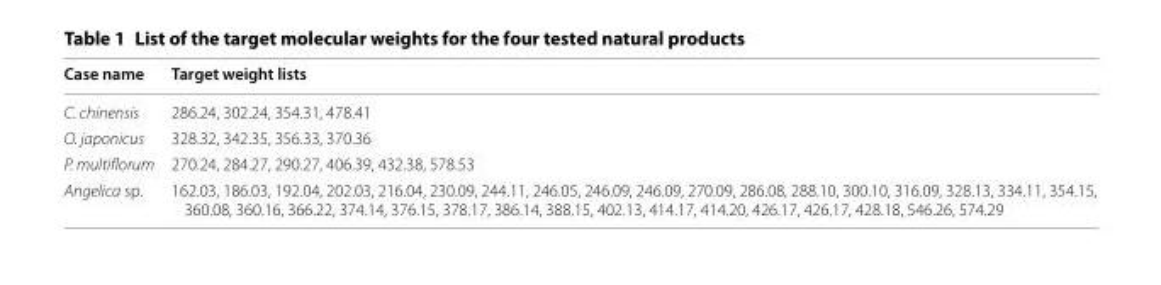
<table><thead><tr><td>Case name</td><td>Target weight lists</td></tr></thead><tbody><tr><td>C. chinensis</td><td>286.24, 302.24, 354.31, 478.41</td></tr><tr><td>O. japonicus</td><td>328.32, 342.35, 356.33, 370.36</td></tr><tr><td>P. multiflorum</td><td>270.24, 284.27, 290.27, 406.39, 432.38, 578.53</td></tr><tr><td>Angelica sp.</td><td>162.03, 186.03, 192.04, 202.03, 216.04, 230.09, 244.11, 246.05, 246.09, 246.09, 270.09, 286.08, 288.10, 300.10, 316.09, 328.13, 334.11, 354.15, 360.08, 360.16, 366.22, 374.14, 376.15, 378.17, 386.14, 388.15, 402.13, 414.17, 414.20, 426.17, 426.17, 428.18, 546.26, 574.29</td></tr></tbody></table>